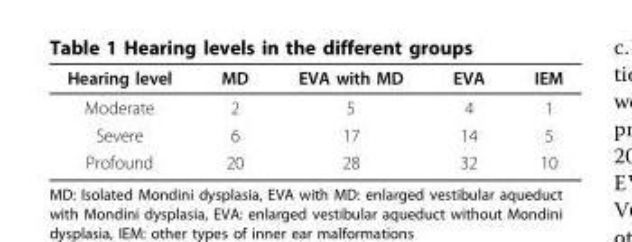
<table><thead><tr><td>Hearing level</td><td>MD</td><td>EVA with MD</td><td>EVA</td><td>IEM</td></tr></thead><tbody><tr><td>Moderate</td><td>2</td><td>5</td><td>4</td><td>1</td></tr><tr><td>Severe</td><td>6</td><td>17</td><td>14</td><td>5</td></tr><tr><td>Profound</td><td>20</td><td>28</td><td>32</td><td>10</td></tr></tbody></table>